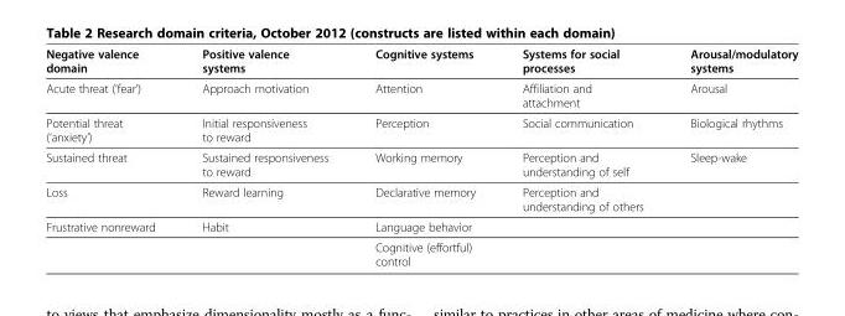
<table><thead><tr><td>Negative valence domain</td><td>Positive valence systems</td><td>Cognitive systems</td><td>Systems for social processes</td><td>Arousal/modulatory systems</td></tr></thead><tbody><tr><td>Acute threat (‘fear’)</td><td>Approach motivation</td><td>Attention</td><td>Affiliation and attachment</td><td>Arousal</td></tr><tr><td>Potential threat (‘anxiety’)</td><td>Initial responsiveness to reward</td><td>Perception</td><td>Social communication</td><td>Biological rhythms</td></tr><tr><td>Sustained threat</td><td>Sustained responsiveness to reward</td><td>Working memory</td><td>Perception and understanding of self</td><td>Sleep-wake</td></tr><tr><td>Loss</td><td>Reward learning</td><td>Declarative memory</td><td>Perception and understanding of others</td><td></td></tr><tr><td rowspan="2">Frustrative nonreward</td><td>Habit</td><td>Language behavior</td><td></td><td></td></tr><tr><td></td><td>Cognitive (effortful) control</td><td></td><td></td></tr></tbody></table>